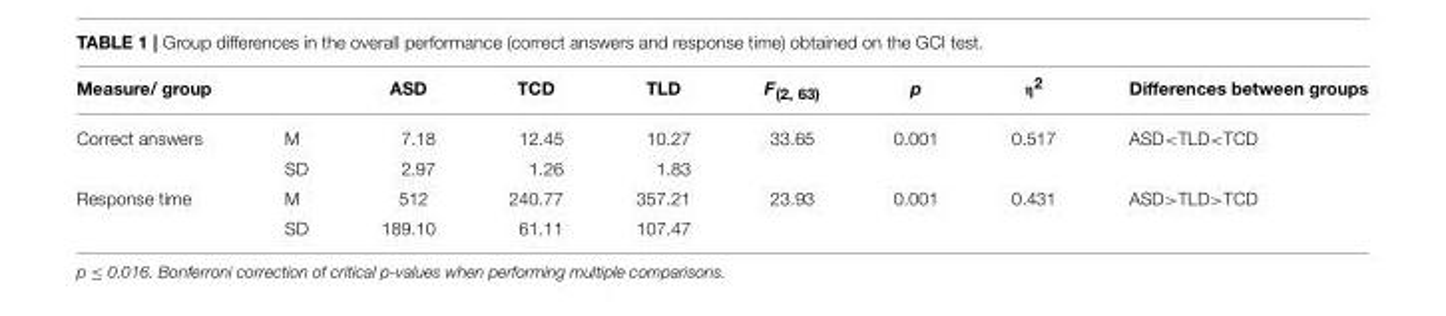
<table><thead><tr><td>Measure/ group</td><td></td><td>ASD</td><td>TCD</td><td>TLD</td><td>F<sub>(2, 63)</sub></td><td>p</td><td>η<sup>2</sup></td><td>Differences between groups</td></tr></thead><tbody><tr><td rowspan="2">Correct answers</td><td>M</td><td>7.18</td><td>12.45</td><td>10.27</td><td>33.65</td><td>0.001</td><td>0.517</td><td>ASD&lt;TLD&lt;TCD</td></tr><tr><td>SD</td><td>2.97</td><td>1.26</td><td>1.83</td><td></td><td></td><td></td><td></td></tr><tr><td rowspan="2">Response time</td><td>M</td><td>512</td><td>240.77</td><td>357.21</td><td>23.93</td><td>0.001</td><td>0.431</td><td>ASD&gt;TLD&gt;TCD</td></tr><tr><td>SD</td><td>189.10</td><td>61.11</td><td>107.47</td><td></td><td></td><td></td><td></td></tr></tbody></table>